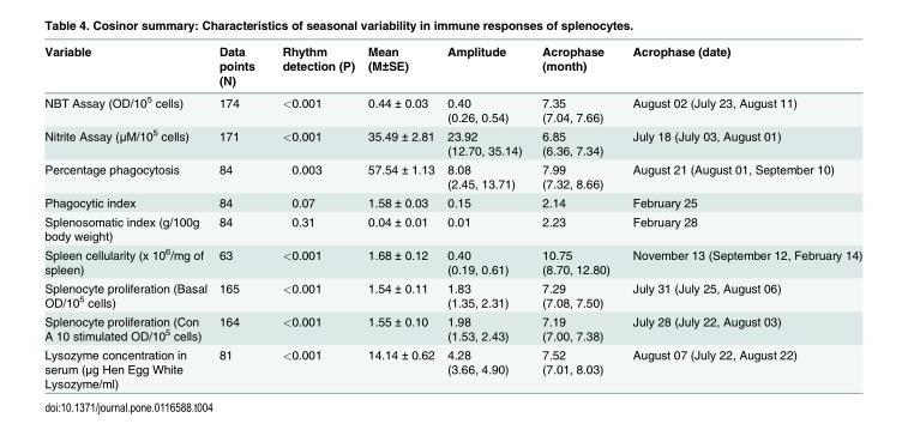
<table><thead><tr><td>Variable</td><td>Data points (N)</td><td>Rhythm detection (P)</td><td>Mean (M±SE)</td><td>Amplitude</td><td>Acrophase (month)</td><td>Acrophase (date)</td></tr></thead><tbody><tr><td>NBT Assay (OD/10<sup>5</sup> cells)</td><td>174</td><td>&lt;0.001</td><td>0.44 ± 0.03</td><td>0.40 (0.26, 0.54)</td><td>7.35 (7.04, 7.66)</td><td>August 02 (July 23, August 11)</td></tr><tr><td>Nitrite Assay (μM/10<sup>5</sup> cells)</td><td>171</td><td>&lt;0.001</td><td>35.49 ± 2.81</td><td>23.92 (12.70, 35.14)</td><td>6.85 (6.36, 7.34)</td><td>July 18 (July 03, August 01)</td></tr><tr><td>Percentage phagocytosis</td><td>84</td><td>0.003</td><td>57.54 ± 1.13</td><td>8.08 (2.45, 13.71)</td><td>7.99 (7.32, 8.66)</td><td>August 21 (August 01, September 10)</td></tr><tr><td>Phagocytic index</td><td>84</td><td>0.07</td><td>1.58 ± 0.03</td><td>0.15</td><td>2.14</td><td>February 25</td></tr><tr><td>Splenosomatic index (g/100g body weight)</td><td>84</td><td>0.31</td><td>0.04 ± 0.01</td><td>0.01</td><td>2.23</td><td>February 28</td></tr><tr><td>Spleen cellularity (x 10<sup>6</sup>/mg of spleen)</td><td>63</td><td>&lt;0.001</td><td>1.68 ± 0.12</td><td>0.40 (0.19, 0.61)</td><td>10.75 (8.70, 12.80)</td><td>November 13 (September 12, February 14)</td></tr><tr><td>Splenocyte proliferation (Basal OD/10<sup>5</sup> cells)</td><td>165</td><td>&lt;0.001</td><td>1.54 ± 0.11</td><td>1.83 (1.35, 2.31)</td><td>7.29 (7.08, 7.50)</td><td>July 31 (July 25, August 06)</td></tr><tr><td>Splenocyte proliferation (Con A 10 stimulated OD/10<sup>5</sup> cells)</td><td>164</td><td>&lt;0.001</td><td>1.55 ± 0.10</td><td>1.98 (1.53, 2.43)</td><td>7.19 (7.00, 7.38)</td><td>July 28 (July 22, August 03)</td></tr><tr><td>Lysozyme concentration in serum (μg Hen Egg White Lysozyme/ml)</td><td>81</td><td>&lt;0.001</td><td>14.14 ± 0.62</td><td>4.28 (3.66, 4.90)</td><td>7.52 (7.01, 8.03)</td><td>August 07 (July 22, August 22)</td></tr></tbody></table>